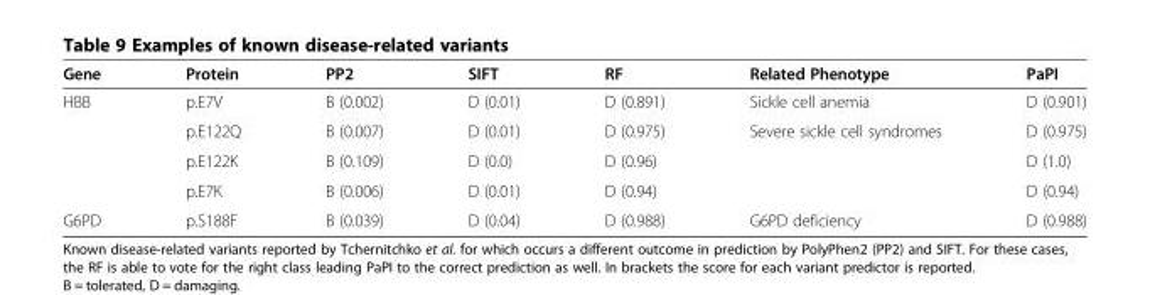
<table><thead><tr><td>Gene</td><td>Protein</td><td>PP2</td><td>SIFT</td><td>RF</td><td>Related Phenotype</td><td>PaPI</td></tr></thead><tbody><tr><td rowspan="4">HBB</td><td>p.E7V</td><td>B (0.002)</td><td>D (0.01)</td><td>D (0.891)</td><td>Sickle cell anemia</td><td>D (0.901)</td></tr><tr><td>p.E122Q</td><td>B (0.007)</td><td>D (0.01)</td><td>D (0.975)</td><td rowspan="3">Severe sickle cell syndromes</td><td>D (0.975)</td></tr><tr><td>p.E122K</td><td>B (0.109)</td><td>D (0.0)</td><td>D (0.96)</td><td>D (1.0)</td></tr><tr><td>p.E7K</td><td>B (0.006)</td><td>D (0.01)</td><td>D (0.94)</td><td>D (0.94)</td></tr><tr><td>G6PD</td><td>p.S188F</td><td>B (0.039)</td><td>D (0.04)</td><td>D (0.988)</td><td>G6PD deficiency</td><td>D (0.988)</td></tr></tbody></table>